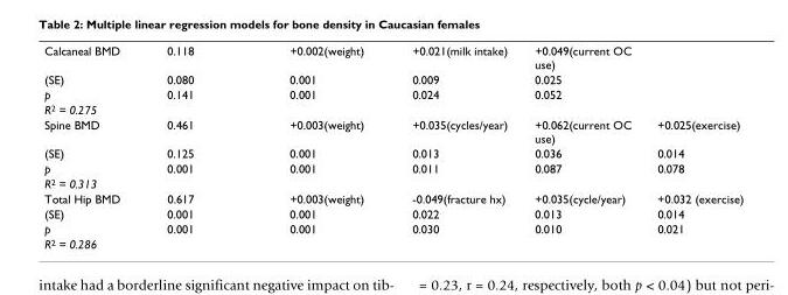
<table><tbody><tr><td>Calcaneal BMD</td><td>0.118</td><td>+0.002(weight)</td><td>+0.021(milk intake)</td><td>+0.049(current OC use)</td><td></td></tr><tr><td>(SE)</td><td>0.080</td><td>0.001</td><td>0.009</td><td>0.025</td><td></td></tr><tr><td>p</td><td>0.141</td><td>0.001</td><td>0.024</td><td>0.052</td><td></td></tr><tr><td colspan="6">R<sup>2</sup> = 0.275</td></tr><tr><td>Spine BMD</td><td>0.461</td><td>+0.003(weight)</td><td>+0.035(cycles/year)</td><td>+0.062(current OC use)</td><td>+0.025(exercise)</td></tr><tr><td>(SE)</td><td>0.125</td><td>0.001</td><td>0.013</td><td>0.036</td><td>0.014</td></tr><tr><td>p</td><td>0.001</td><td>0.001</td><td>0.011</td><td>0.087</td><td>0.078</td></tr><tr><td colspan="6">R<sup>2</sup> = 0.313</td></tr><tr><td>Total Hip BMD</td><td>0.617</td><td>+0.003(weight)</td><td>-0.049(fracture hx)</td><td>+0.035(cycle/year)</td><td>+0.032 (exercise)</td></tr><tr><td>(SE)</td><td>0.001</td><td>0.001</td><td>0.022</td><td>0.013</td><td>0.014</td></tr><tr><td>p</td><td>0.001</td><td>0.001</td><td>0.030</td><td>0.010</td><td>0.021</td></tr><tr><td>R<sup>2</sup> = 0.286</td><td></td><td></td><td></td><td></td><td></td></tr></tbody></table>